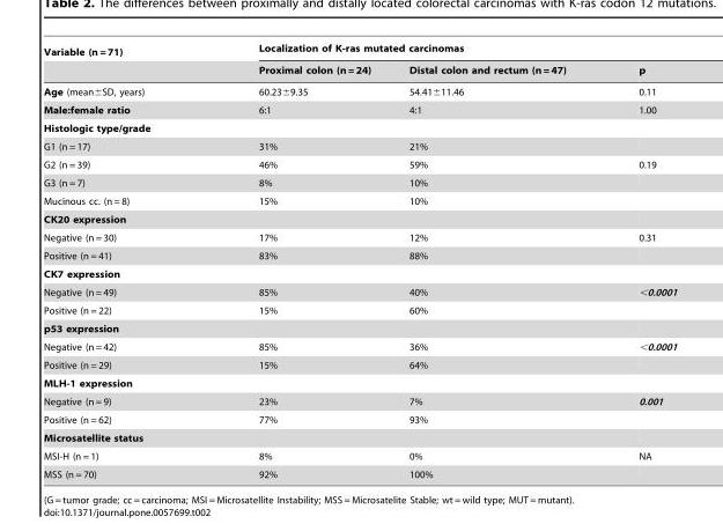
<table><thead><tr><td rowspan="2">Variable (n = 71)</td><td colspan="3">Localization of K-ras mutated carcinomas</td></tr><tr><td>Proximal colon (n = 24)</td><td>Distal colon and rectum (n = 47)</td><td>p</td></tr></thead><tbody><tr><td>Age (mean±SD, years)</td><td>60.23±9.35</td><td>54.41±11.46</td><td>0.11</td></tr><tr><td>Male:female ratio</td><td>6:1</td><td>4:1</td><td>1.00</td></tr><tr><td colspan="4">Histologic type/grade</td></tr><tr><td>G1 (n = 17)</td><td>31%</td><td>21%</td><td></td></tr><tr><td>G2 (n = 39)</td><td>46%</td><td>59%</td><td>0.19</td></tr><tr><td>G3 (n = 7)</td><td>8%</td><td>10%</td><td></td></tr><tr><td>Mucinous cc. (n = 8)</td><td>15%</td><td>10%</td><td></td></tr><tr><td colspan="4">CK20 expression</td></tr><tr><td>Negative (n = 30)</td><td>17%</td><td>12%</td><td>0.31</td></tr><tr><td>Positive (n = 41)</td><td>83%</td><td>88%</td><td></td></tr><tr><td colspan="4">CK7 expression</td></tr><tr><td>Negative (n = 49)</td><td>85%</td><td>40%</td><td>&lt;0.0001</td></tr><tr><td>Positive (n = 22)</td><td>15%</td><td>60%</td><td></td></tr><tr><td colspan="4">p53 expression</td></tr><tr><td>Negative (n = 42)</td><td>85%</td><td>36%</td><td>&lt;0.0001</td></tr><tr><td>Positive (n = 29)</td><td>15%</td><td>64%</td><td></td></tr><tr><td colspan="4">MLH-1 expression</td></tr><tr><td>Negative (n = 9)</td><td>23%</td><td>7%</td><td>0.001</td></tr><tr><td>Positive (n = 62)</td><td>77%</td><td>93%</td><td></td></tr><tr><td colspan="4">Microsatellite status</td></tr><tr><td>MSI-H (n = 1)</td><td>8%</td><td>0%</td><td>NA</td></tr><tr><td>MSS (n = 70)</td><td>92%</td><td>100%</td><td></td></tr></tbody></table>